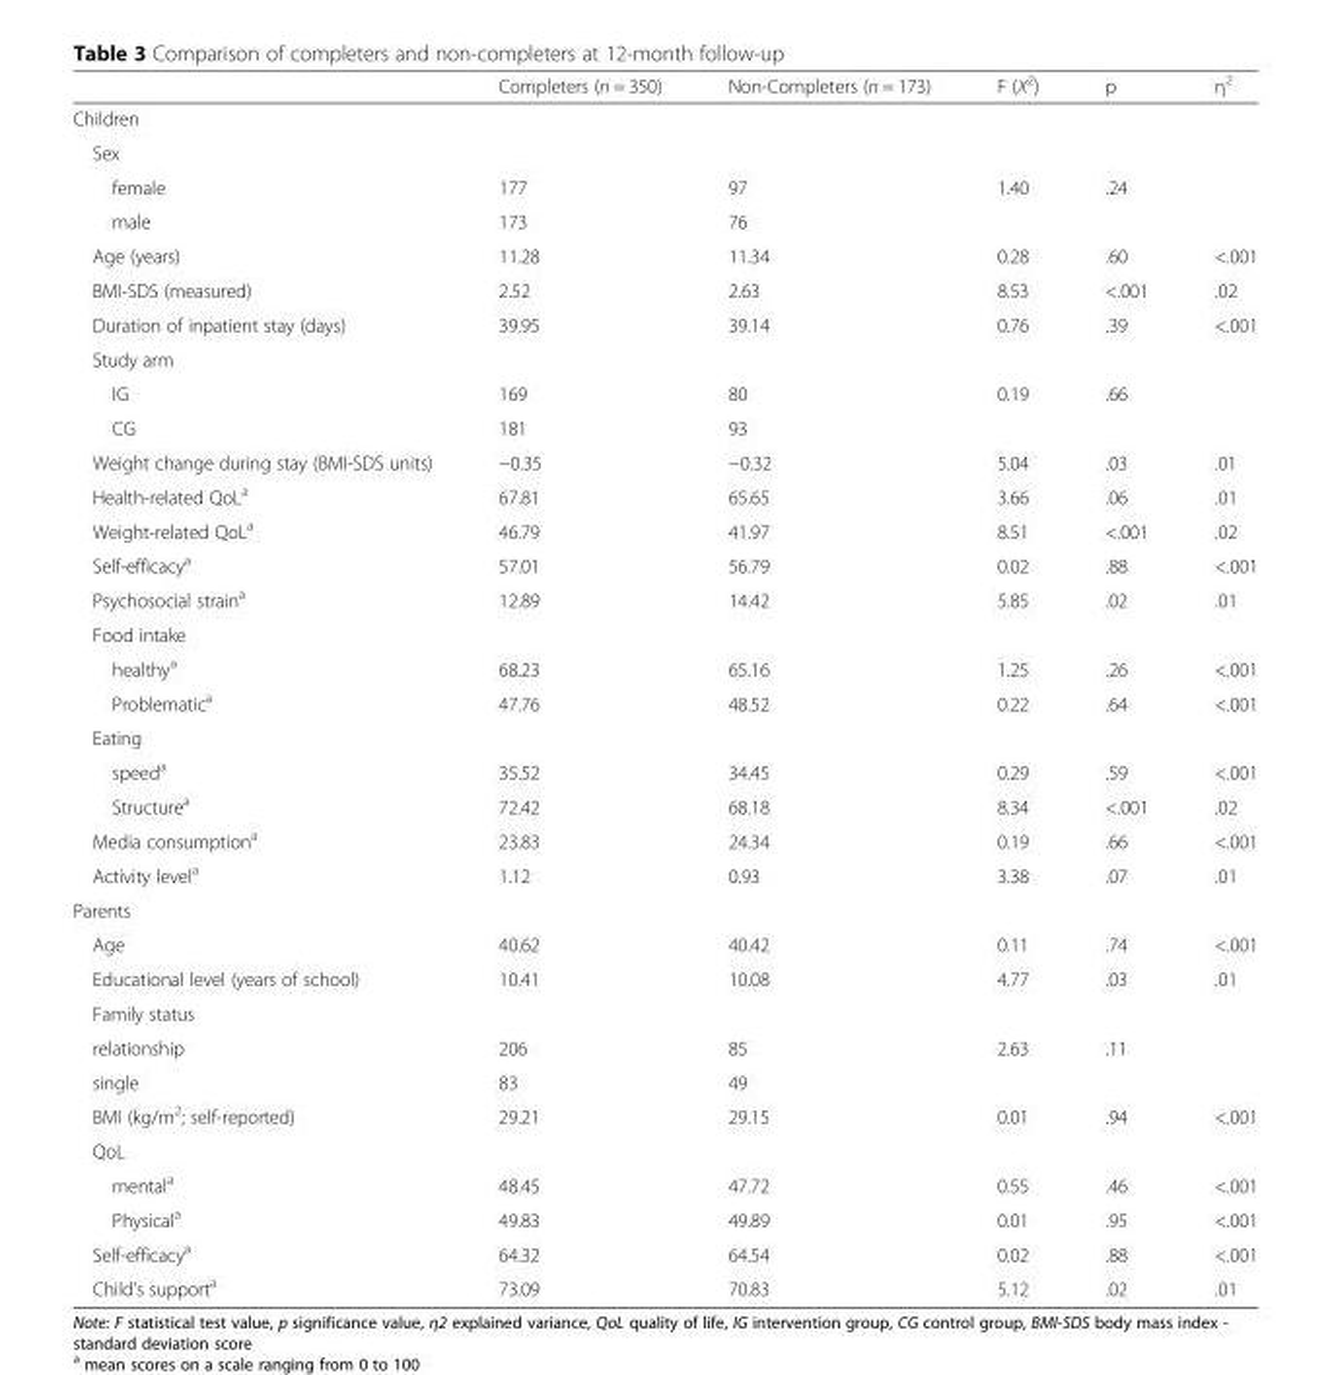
<table><thead><tr><td></td><td>Completers (n = 350)</td><td>Non-Completers (n = 173)</td><td>F (X<sup>2</sup>)</td><td>p</td><td>η<sup>2</sup></td></tr></thead><tbody><tr><td colspan="6">Children</td></tr><tr><td colspan="6">Sex</td></tr><tr><td>female</td><td>177</td><td>97</td><td>1.40</td><td>.24</td><td></td></tr><tr><td>male</td><td>173</td><td>76</td><td></td><td></td><td></td></tr><tr><td>Age (years)</td><td>11.28</td><td>11.34</td><td>0.28</td><td>.60</td><td>&lt;.001</td></tr><tr><td>BMI-SDS (measured)</td><td>2.52</td><td>2.63</td><td>8.53</td><td>&lt;.001</td><td>.02</td></tr><tr><td>Duration of inpatient stay (days)</td><td>39.95</td><td>39.14</td><td>0.76</td><td>.39</td><td>&lt;.001</td></tr><tr><td colspan="6">Study arm</td></tr><tr><td>IG</td><td>169</td><td>80</td><td>0.19</td><td>.66</td><td></td></tr><tr><td>CG</td><td>181</td><td>93</td><td></td><td></td><td></td></tr><tr><td>Weight change during stay (BMI-SDS units)</td><td>−0.35</td><td>−0.32</td><td>5.04</td><td>.03</td><td>.01</td></tr><tr><td>Health-related QoL<sup>a</sup></td><td>67.81</td><td>65.65</td><td>3.66</td><td>.06</td><td>.01</td></tr><tr><td>Weight-related QoL<sup>a</sup></td><td>46.79</td><td>41.97</td><td>8.51</td><td>&lt;.001</td><td>.02</td></tr><tr><td>Self-efficacy<sup>a</sup></td><td>57.01</td><td>56.79</td><td>0.02</td><td>.88</td><td>&lt;.001</td></tr><tr><td>Psychosocial strain<sup>a</sup></td><td>12.89</td><td>14.42</td><td>5.85</td><td>.02</td><td>.01</td></tr><tr><td colspan="6">Food intake</td></tr><tr><td>healthy<sup>a</sup></td><td>68.23</td><td>65.16</td><td>1.25</td><td>.26</td><td>&lt;.001</td></tr><tr><td>Problematic<sup>a</sup></td><td>47.76</td><td>48.52</td><td>0.22</td><td>.64</td><td>&lt;.001</td></tr><tr><td colspan="6">Eating</td></tr><tr><td>speed<sup>a</sup></td><td>35.52</td><td>34.45</td><td>0.29</td><td>.59</td><td>&lt;.001</td></tr><tr><td>Structure<sup>a</sup></td><td>72.42</td><td>68.18</td><td>8.34</td><td>&lt;.001</td><td>.02</td></tr><tr><td>Media consumption<sup>a</sup></td><td>23.83</td><td>24.34</td><td>0.19</td><td>.66</td><td>&lt;.001</td></tr><tr><td>Activity level<sup>a</sup></td><td>1.12</td><td>0.93</td><td>3.38</td><td>.07</td><td>.01</td></tr><tr><td colspan="6">Parents</td></tr><tr><td>Age</td><td>40.62</td><td>40.42</td><td>0.11</td><td>.74</td><td>&lt;.001</td></tr><tr><td>Educational level (years of school)</td><td>10.41</td><td>10.08</td><td>4.77</td><td>.03</td><td>.01</td></tr><tr><td colspan="6">Family status</td></tr><tr><td>relationship</td><td>206</td><td>85</td><td>2.63</td><td>.11</td><td></td></tr><tr><td>single</td><td>83</td><td>49</td><td></td><td></td><td></td></tr><tr><td>BMI (kg/m<sup>2</sup>; self-reported)</td><td>29.21</td><td>29.15</td><td>0.01</td><td>.94</td><td>&lt;.001</td></tr><tr><td colspan="6">QoL</td></tr><tr><td>mental<sup>a</sup></td><td>48.45</td><td>47.72</td><td>0.55</td><td>.46</td><td>&lt;.001</td></tr><tr><td>Physical<sup>a</sup></td><td>49.83</td><td>49.89</td><td>0.01</td><td>.95</td><td>&lt;.001</td></tr><tr><td>Self-efficacy<sup>a</sup></td><td>64.32</td><td>64.54</td><td>0.02</td><td>.88</td><td>&lt;.001</td></tr><tr><td>Child’s support<sup>a</sup></td><td>73.09</td><td>70.83</td><td>5.12</td><td>.02</td><td>.01</td></tr></tbody></table>